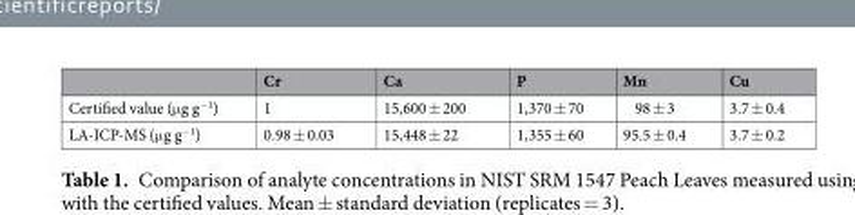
<table><thead><tr><td></td><td>Cr</td><td>Ca</td><td>P</td><td>Mn</td><td>Cu</td></tr></thead><tbody><tr><td>Certified value (μg g<sup>−1</sup>)</td><td>1</td><td>15,600 ± 200</td><td>1,370 ± 70</td><td>98 ± 3</td><td>3.7 ± 0.4</td></tr><tr><td>LA-ICP-MS (μg g<sup>−1</sup>)</td><td>0.98 ± 0.03</td><td>15,448 ± 22</td><td>1,355 ± 60</td><td>95.5 ± 0.4</td><td>3.7 ± 0.2</td></tr></tbody></table>